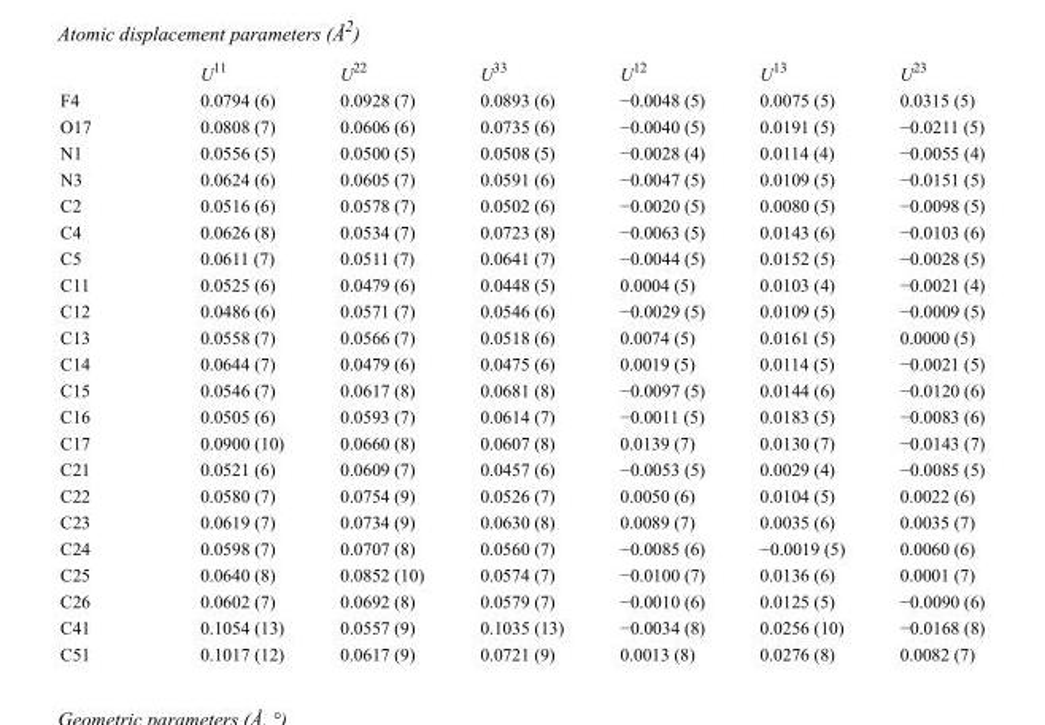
<table><thead><tr><td></td><td>U<sup>11</sup></td><td>U<sup>22</sup></td><td>U<sup>33</sup></td><td>U<sup>12</sup></td><td>U<sup>13</sup></td><td>U<sup>23</sup></td></tr></thead><tbody><tr><td>F4</td><td>0.0794 (6)</td><td>0.0928 (7)</td><td>0.0893 (6)</td><td>−0.0048 (5)</td><td>0.0075 (5)</td><td>0.0315 (5)</td></tr><tr><td>O17</td><td>0.0808 (7)</td><td>0.0606 (6)</td><td>0.0735 (6)</td><td>−0.0040 (5)</td><td>0.0191 (5)</td><td>−0.0211 (5)</td></tr><tr><td>N1</td><td>0.0556 (5)</td><td>0.0500 (5)</td><td>0.0508 (5)</td><td>−0.0028 (4)</td><td>0.0114 (4)</td><td>−0.0055 (4)</td></tr><tr><td>N3</td><td>0.0624 (6)</td><td>0.0605 (7)</td><td>0.0591 (6)</td><td>−0.0047 (5)</td><td>0.0109 (5)</td><td>−0.0151 (5)</td></tr><tr><td>C2</td><td>0.0516 (6)</td><td>0.0578 (7)</td><td>0.0502 (6)</td><td>−0.0020 (5)</td><td>0.0080 (5)</td><td>−0.0098 (5)</td></tr><tr><td>C4</td><td>0.0626 (8)</td><td>0.0534 (7)</td><td>0.0723 (8)</td><td>−0.0063 (5)</td><td>0.0143 (6)</td><td>−0.0103 (6)</td></tr><tr><td>C5</td><td>0.0611 (7)</td><td>0.0511 (7)</td><td>0.0641 (7)</td><td>−0.0044 (5)</td><td>0.0152 (5)</td><td>−0.0028 (5)</td></tr><tr><td>C11</td><td>0.0525 (6)</td><td>0.0479 (6)</td><td>0.0448 (5)</td><td>0.0004 (5)</td><td>0.0103 (4)</td><td>−0.0021 (4)</td></tr><tr><td>C12</td><td>0.0486 (6)</td><td>0.0571 (7)</td><td>0.0546 (6)</td><td>−0.0029 (5)</td><td>0.0109 (5)</td><td>−0.0009 (5)</td></tr><tr><td>C13</td><td>0.0558 (7)</td><td>0.0566 (7)</td><td>0.0518 (6)</td><td>0.0074 (5)</td><td>0.0161 (5)</td><td>0.0000 (5)</td></tr><tr><td>C14</td><td>0.0644 (7)</td><td>0.0479 (6)</td><td>0.0475 (6)</td><td>0.0019 (5)</td><td>0.0114 (5)</td><td>−0.0021 (5)</td></tr><tr><td>C15</td><td>0.0546 (7)</td><td>0.0617 (8)</td><td>0.0681 (8)</td><td>−0.0097 (5)</td><td>0.0144 (6)</td><td>−0.0120 (6)</td></tr><tr><td>C16</td><td>0.0505 (6)</td><td>0.0593 (7)</td><td>0.0614 (7)</td><td>−0.0011 (5)</td><td>0.0183 (5)</td><td>−0.0083 (6)</td></tr><tr><td>C17</td><td>0.0900 (10)</td><td>0.0660 (8)</td><td>0.0607 (8)</td><td>0.0139 (7)</td><td>0.0130 (7)</td><td>−0.0143 (7)</td></tr><tr><td>C21</td><td>0.0521 (6)</td><td>0.0609 (7)</td><td>0.0457 (6)</td><td>−0.0053 (5)</td><td>0.0029 (4)</td><td>−0.0085 (5)</td></tr><tr><td>C22</td><td>0.0580 (7)</td><td>0.0754 (9)</td><td>0.0526 (7)</td><td>0.0050 (6)</td><td>0.0104 (5)</td><td>0.0022 (6)</td></tr><tr><td>C23</td><td>0.0619 (7)</td><td>0.0734 (9)</td><td>0.0630 (8)</td><td>0.0089 (7)</td><td>0.0035 (6)</td><td>0.0035 (7)</td></tr><tr><td>C24</td><td>0.0598 (7)</td><td>0.0707 (8)</td><td>0.0560 (7)</td><td>−0.0085 (6)</td><td>−0.0019 (5)</td><td>0.0060 (6)</td></tr><tr><td>C25</td><td>0.0640 (8)</td><td>0.0852 (10)</td><td>0.0574 (7)</td><td>−0.0100 (7)</td><td>0.0136 (6)</td><td>0.0001 (7)</td></tr><tr><td>C26</td><td>0.0602 (7)</td><td>0.0692 (8)</td><td>0.0579 (7)</td><td>−0.0010 (6)</td><td>0.0125 (5)</td><td>−0.0090 (6)</td></tr><tr><td>C41</td><td>0.1054 (13)</td><td>0.0557 (9)</td><td>0.1035 (13)</td><td>−0.0034 (8)</td><td>0.0256 (10)</td><td>−0.0168 (8)</td></tr><tr><td>C51</td><td>0.1017 (12)</td><td>0.0617 (9)</td><td>0.0721 (9)</td><td>0.0013 (8)</td><td>0.0276 (8)</td><td>0.0082 (7)</td></tr></tbody></table>